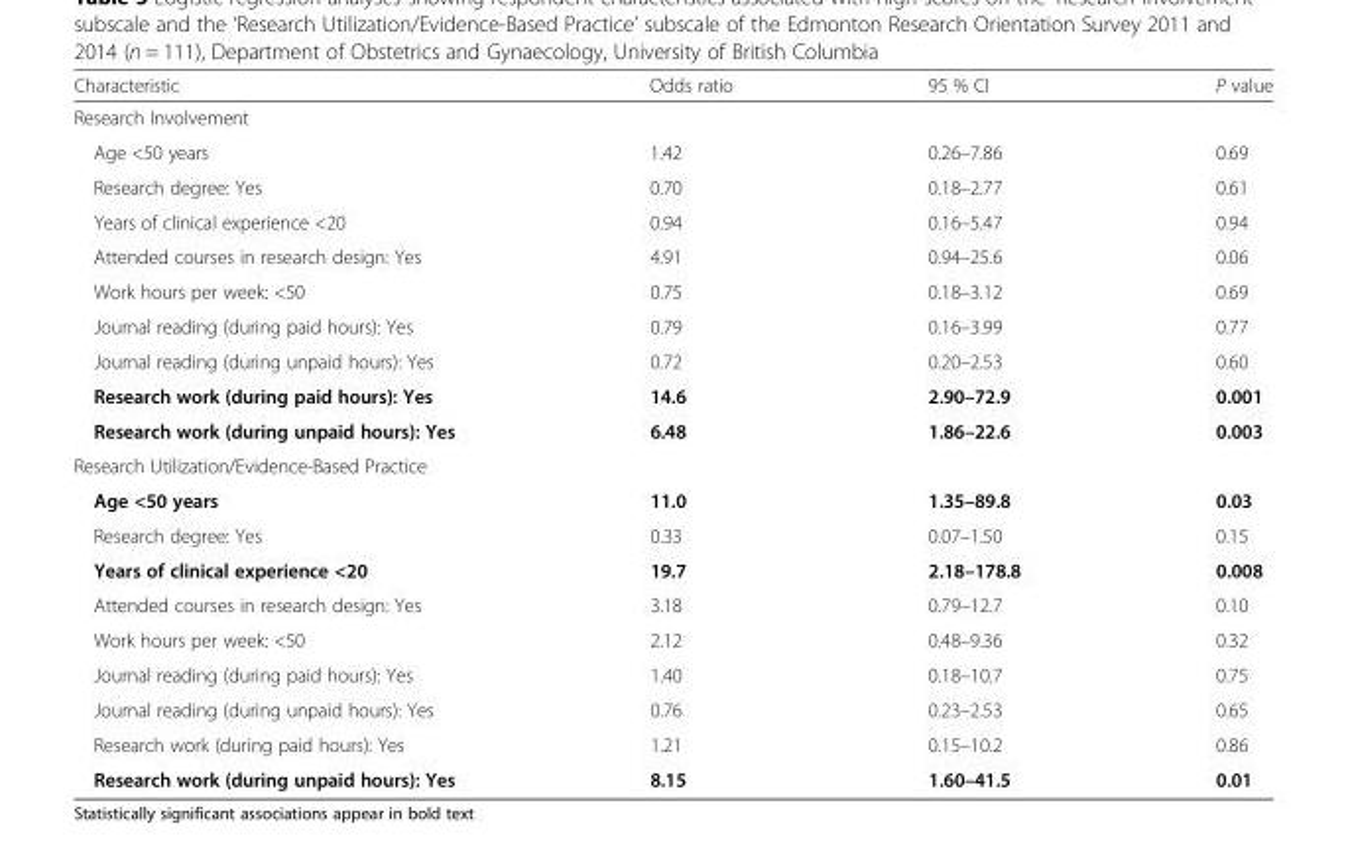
<table><thead><tr><td>Characteristic</td><td>Odds ratio</td><td>95 % CI</td><td>P value</td></tr></thead><tbody><tr><td colspan="4">Research Involvement</td></tr><tr><td>Age &lt;50 years</td><td>1.42</td><td>0.26–7.86</td><td>0.69</td></tr><tr><td>Research degree: Yes</td><td>0.70</td><td>0.18–2.77</td><td>0.61</td></tr><tr><td>Years of clinical experience &lt;20</td><td>0.94</td><td>0.16–5.47</td><td>0.94</td></tr><tr><td>Attended courses in research design: Yes</td><td>4.91</td><td>0.94–25.6</td><td>0.06</td></tr><tr><td>Work hours per week: &lt;50</td><td>0.75</td><td>0.18–3.12</td><td>0.69</td></tr><tr><td>Journal reading (during paid hours): Yes</td><td>0.79</td><td>0.16–3.99</td><td>0.77</td></tr><tr><td>Journal reading (during unpaid hours): Yes</td><td>0.72</td><td>0.20–2.53</td><td>0.60</td></tr><tr><td>Research work (during paid hours): Yes</td><td>14.6</td><td>2.90–72.9</td><td>0.001</td></tr><tr><td>Research work (during unpaid hours): Yes</td><td>6.48</td><td>1.86–22.6</td><td>0.003</td></tr><tr><td colspan="4">Research Utilization/Evidence-Based Practice</td></tr><tr><td>Age &lt;50 years</td><td>11.0</td><td>1.35–89.8</td><td>0.03</td></tr><tr><td>Research degree: Yes</td><td>0.33</td><td>0.07–1.50</td><td>0.15</td></tr><tr><td>Years of clinical experience &lt;20</td><td>19.7</td><td>2.18–178.8</td><td>0.008</td></tr><tr><td>Attended courses in research design: Yes</td><td>3.18</td><td>0.79–12.7</td><td>0.10</td></tr><tr><td>Work hours per week: &lt;50</td><td>2.12</td><td>0.48–9.36</td><td>0.32</td></tr><tr><td>Journal reading (during paid hours): Yes</td><td>1.40</td><td>0.18–10.7</td><td>0.75</td></tr><tr><td>Journal reading (during unpaid hours): Yes</td><td>0.76</td><td>0.23–2.53</td><td>0.65</td></tr><tr><td>Research work (during paid hours): Yes</td><td>1.21</td><td>0.15–10.2</td><td>0.86</td></tr><tr><td>Research work (during unpaid hours): Yes</td><td>8.15</td><td>1.60–41.5</td><td>0.01</td></tr></tbody></table>